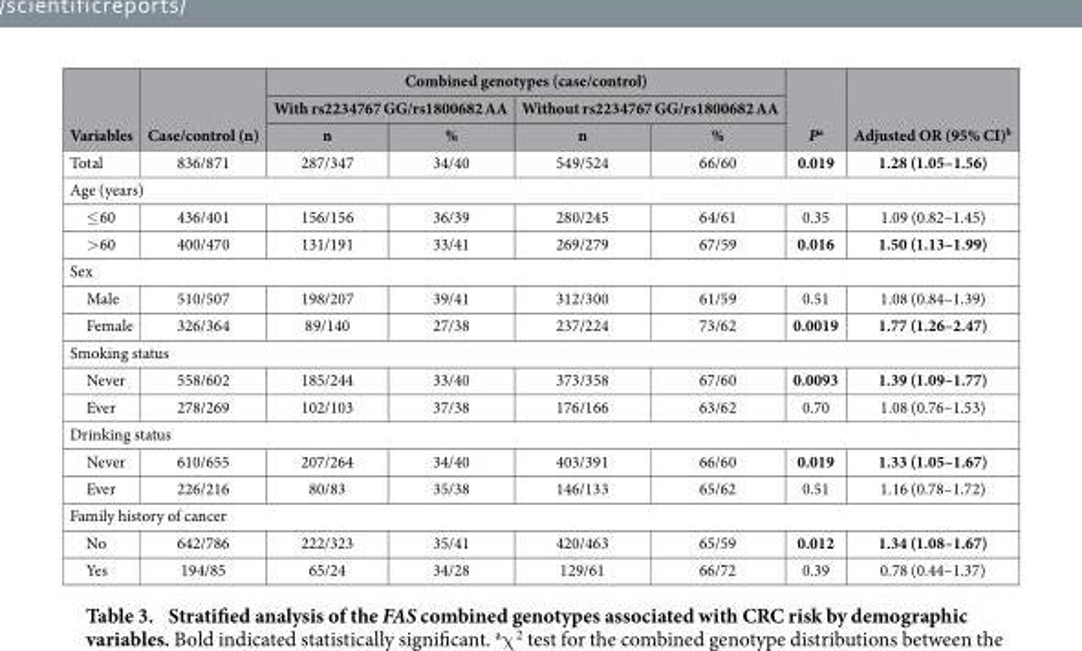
<table><thead><tr><td rowspan="3">Variables</td><td rowspan="3">Case/control (n)</td><td colspan="4">Combined genotypes (case/control)</td><td rowspan="3">P<sup>a</sup></td><td rowspan="3">Adjusted OR (95% CI)<sup>b</sup></td></tr><tr><td colspan="2">With rs2234767 GG/rs1800682 AA</td><td colspan="2">Without rs2234767 GG/rs1800682 AA</td></tr><tr><td>n</td><td>%</td><td>n</td><td>%</td></tr></thead><tbody><tr><td>Total</td><td>836/871</td><td>287/347</td><td>34/40</td><td>549/524</td><td>66/60</td><td>0.019</td><td>1.28 (1.05–1.56)</td></tr><tr><td colspan="8">Age (years)</td></tr><tr><td>≤ 60</td><td>436/401</td><td>156/156</td><td>36/39</td><td>280/245</td><td>64/61</td><td>0.35</td><td>1.09 (0.82–1.45)</td></tr><tr><td>&gt; 60</td><td>400/470</td><td>131/191</td><td>33/41</td><td>269/279</td><td>67/59</td><td>0.016</td><td>1.50 (1.13–1.99)</td></tr><tr><td colspan="8">Sex</td></tr><tr><td>Male</td><td>510/507</td><td>198/207</td><td>39/41</td><td>312/300</td><td>61/59</td><td>0.51</td><td>1.08 (0.84–1.39)</td></tr><tr><td>Female</td><td>326/364</td><td>89/140</td><td>27/38</td><td>237/224</td><td>73/62</td><td>0.0019</td><td>1.77 (1.26–2.47)</td></tr><tr><td colspan="8">Smoking status</td></tr><tr><td>Never</td><td>558/602</td><td>185/244</td><td>33/40</td><td>373/358</td><td>67/60</td><td>0.0093</td><td>1.39 (1.09–1.77)</td></tr><tr><td>Ever</td><td>278/269</td><td>102/103</td><td>37/38</td><td>176/166</td><td>63/62</td><td>0.70</td><td>1.08 (0.76–1.53)</td></tr><tr><td colspan="8">Drinking status</td></tr><tr><td>Never</td><td>610/655</td><td>207/264</td><td>34/40</td><td>403/391</td><td>66/60</td><td>0.019</td><td>1.33 (1.05–1.67)</td></tr><tr><td>Ever</td><td>226/216</td><td>80/83</td><td>35/38</td><td>146/133</td><td>65/62</td><td>0.51</td><td>1.16 (0.78–1.72)</td></tr><tr><td colspan="8">Family history of cancer</td></tr><tr><td>No</td><td>642/786</td><td>222/323</td><td>35/41</td><td>420/463</td><td>65/59</td><td>0.012</td><td>1.34 (1.08–1.67)</td></tr><tr><td>Yes</td><td>194/85</td><td>65/24</td><td>34/28</td><td>129/61</td><td>66/72</td><td>0.39</td><td>0.78 (0.44–1.37)</td></tr></tbody></table>